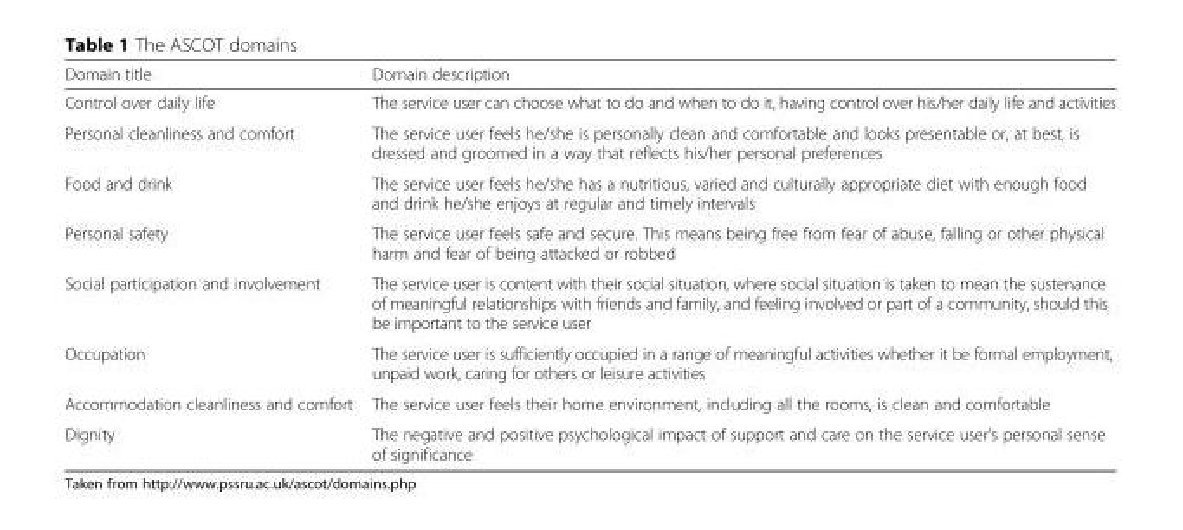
<table><thead><tr><td>Domain title</td><td>Domain description</td></tr></thead><tbody><tr><td>Control over daily life</td><td>The service user can choose what to do and when to do it, having control over his/her daily life and activities</td></tr><tr><td>Personal cleanliness and comfort</td><td>The service user feels he/she is personally clean and comfortable and looks presentable or, at best, is dressed and groomed in a way that reflects his/her personal preferences</td></tr><tr><td>Food and drink</td><td>The service user feels he/she has a nutritious, varied and culturally appropriate diet with enough food and drink he/she enjoys at regular and timely intervals</td></tr><tr><td>Personal safety</td><td>The service user feels safe and secure. This means being free from fear of abuse, falling or other physical harm and fear of being attacked or robbed</td></tr><tr><td>Social participation and involvement</td><td>The service user is content with their social situation, where social situation is taken to mean the sustenance of meaningful relationships with friends and family, and feeling involved or part of a community, should this be important to the service user</td></tr><tr><td>Occupation</td><td>The service user is sufficiently occupied in a range of meaningful activities whether it be formal employment, unpaid work, caring for others or leisure activities</td></tr><tr><td>Accommodation cleanliness and comfort</td><td>The service user feels their home environment, including all the rooms, is clean and comfortable</td></tr><tr><td>Dignity</td><td>The negative and positive psychological impact of support and care on the service user’s personal sense of significance</td></tr></tbody></table>